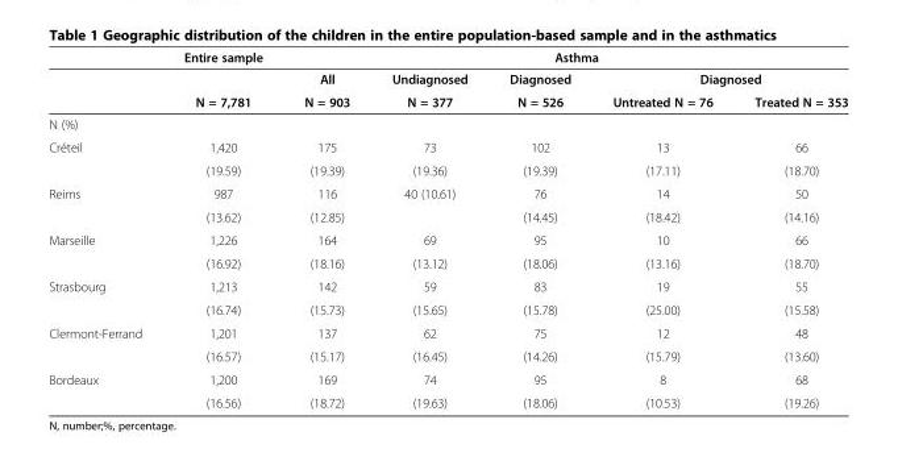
<table><thead><tr><td rowspan="3"></td><td rowspan="3">Entire sample N = 7,781</td><td colspan="5">Asthma</td></tr><tr><td rowspan="2">All N = 903</td><td rowspan="2">Undiagnosed N = 377</td><td rowspan="2">Diagnosed N = 526</td><td colspan="2">Diagnosed</td></tr><tr><td>Untreated N = 76</td><td>Treated N = 353</td></tr></thead><tbody><tr><td colspan="7">N (%)</td></tr><tr><td rowspan="2">Créteil</td><td>1,420</td><td>175</td><td>73</td><td>102</td><td>13</td><td>66</td></tr><tr><td>(19.59)</td><td>(19.39)</td><td>(19.36)</td><td>(19.39)</td><td>(17.11)</td><td>(18.70)</td></tr><tr><td rowspan="2">Reims</td><td>987</td><td>116</td><td>40 (10.61)</td><td>76</td><td>14</td><td>50</td></tr><tr><td>(13.62)</td><td>(12.85)</td><td></td><td>(14.45)</td><td>(18.42)</td><td>(14.16)</td></tr><tr><td rowspan="2">Marseille</td><td>1,226</td><td>164</td><td>69</td><td>95</td><td>10</td><td>66</td></tr><tr><td>(16.92)</td><td>(18.16)</td><td>(13.12)</td><td>(18.06)</td><td>(13.16)</td><td>(18.70)</td></tr><tr><td rowspan="2">Strasbourg</td><td>1,213</td><td>142</td><td>59</td><td>83</td><td>19</td><td>55</td></tr><tr><td>(16.74)</td><td>(15.73)</td><td>(15.65)</td><td>(15.78)</td><td>(25.00)</td><td>(15.58)</td></tr><tr><td rowspan="2">Clermont-Ferrand</td><td>1,201</td><td>137</td><td>62</td><td>75</td><td>12</td><td>48</td></tr><tr><td>(16.57)</td><td>(15.17)</td><td>(16.45)</td><td>(14.26)</td><td>(15.79)</td><td>(13.60)</td></tr><tr><td rowspan="2">Bordeaux</td><td>1,200</td><td>169</td><td>74</td><td>95</td><td>8</td><td>68</td></tr><tr><td>(16.56)</td><td>(18.72)</td><td>(19.63)</td><td>(18.06)</td><td>(10.53)</td><td>(19.26)</td></tr></tbody></table>